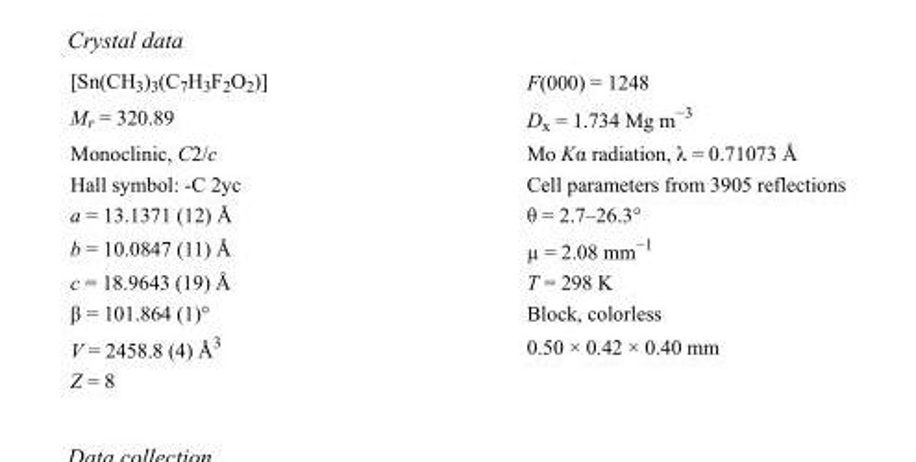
<table><tbody><tr><td>[Sn(CH<sub>3</sub>)<sub>3</sub>(C<sub>7</sub>H<sub>3</sub>F<sub>2</sub>O<sub>2</sub>)]</td><td>F(000) = 1248</td></tr><tr><td>M<sub>r</sub> = 320.89</td><td>D<sub>x</sub> = 1.734 Mg m<sup>−3</sup></td></tr><tr><td>Monoclinic, C2/c</td><td>Mo Kα radiation, λ = 0.71073 Å</td></tr><tr><td>Hall symbol: -C 2yc</td><td>Cell parameters from 3905 reflections</td></tr><tr><td>a = 13.1371 (12) Å</td><td>θ = 2.7–26.3°</td></tr><tr><td>b = 10.0847 (11) Å</td><td>µ = 2.08 mm<sup>−1</sup></td></tr><tr><td>c = 18.9643 (19) Å</td><td>T = 298 K</td></tr><tr><td>β = 101.864 (1)°</td><td>Block, colorless</td></tr><tr><td>V = 2458.8 (4) Å<sup>3</sup></td><td>0.50 × 0.42 × 0.40 mm</td></tr><tr><td>Z = 8</td><td></td></tr></tbody></table>